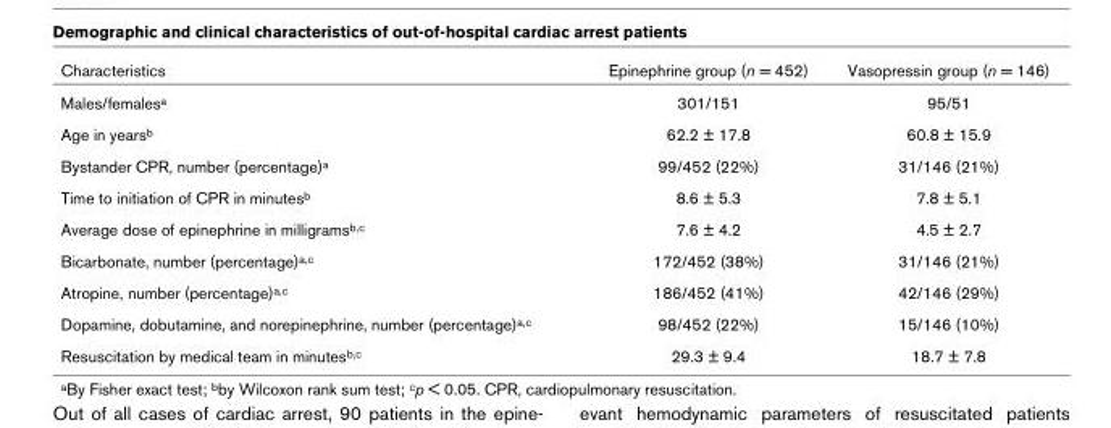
<table><thead><tr><td>Characteristics</td><td>Epinephrine group (n = 452)</td><td>Vasopressin group (n = 146)</td></tr></thead><tbody><tr><td>Males/females<sup>a</sup></td><td>301/151</td><td>95/51</td></tr><tr><td>Age in years<sup>b</sup></td><td>62.2 ± 17.8</td><td>60.8 ± 15.9</td></tr><tr><td>Bystander CPR, number (percentage)<sup>a</sup></td><td>99/452 (22%)</td><td>31/146 (21%)</td></tr><tr><td>Time to initiation of CPR in minutes<sup>b</sup></td><td>8.6 ± 5.3</td><td>7.8 ± 5.1</td></tr><tr><td>Average dose of epinephrine in milligrams<sup>b,c</sup></td><td>7.6 ± 4.2</td><td>4.5 ± 2.7</td></tr><tr><td>Bicarbonate, number (percentage)<sup>a,c</sup></td><td>172/452 (38%)</td><td>31/146 (21%)</td></tr><tr><td>Atropine, number (percentage)<sup>a,c</sup></td><td>186/452 (41%)</td><td>42/146 (29%)</td></tr><tr><td>Dopamine, dobutamine, and norepinephrine, number (percentage)<sup>a,c</sup></td><td>98/452 (22%)</td><td>15/146 (10%)</td></tr><tr><td>Resuscitation by medical team in minutes<sup>b,c</sup></td><td>29.3 ± 9.4</td><td>18.7 ± 7.8</td></tr></tbody></table>